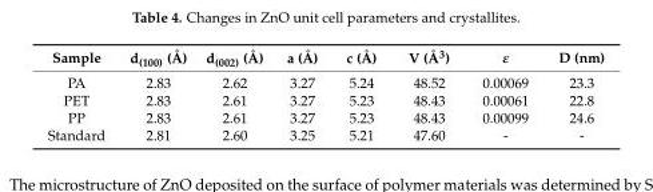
<table><thead><tr><td>Sample</td><td>d<sub>(100)</sub> (Å)</td><td>d<sub>(002)</sub> (Å)</td><td>a (Å)</td><td>c (Å)</td><td>V (Å<sup>3</sup>)</td><td>ε</td><td>D (nm)</td></tr></thead><tbody><tr><td>PA</td><td>2.83</td><td>2.62</td><td>3.27</td><td>5.24</td><td>48.52</td><td>0.00069</td><td>23.3</td></tr><tr><td>PET</td><td>2.83</td><td>2.61</td><td>3.27</td><td>5.23</td><td>48.43</td><td>0.00061</td><td>22.8</td></tr><tr><td>PP</td><td>2.83</td><td>2.61</td><td>3.27</td><td>5.23</td><td>48.43</td><td>0.00099</td><td>24.6</td></tr><tr><td>Standard</td><td>2.81</td><td>2.60</td><td>3.25</td><td>5.21</td><td>47.60</td><td>-</td><td>-</td></tr></tbody></table>